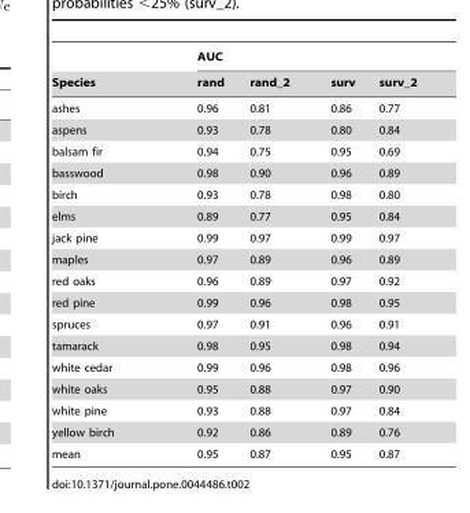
<table><thead><tr><td rowspan="2">Species</td><td colspan="4">AUC</td></tr><tr><td>rand</td><td>rand_2</td><td>surv</td><td>surv_2</td></tr></thead><tbody><tr><td>ashes</td><td>0.96</td><td>0.81</td><td>0.86</td><td>0.77</td></tr><tr><td>aspens</td><td>0.93</td><td>0.78</td><td>0.80</td><td>0.84</td></tr><tr><td>balsam fir</td><td>0.94</td><td>0.75</td><td>0.95</td><td>0.69</td></tr><tr><td>basswood</td><td>0.98</td><td>0.90</td><td>0.96</td><td>0.89</td></tr><tr><td>birch</td><td>0.93</td><td>0.78</td><td>0.98</td><td>0.80</td></tr><tr><td>elms</td><td>0.89</td><td>0.77</td><td>0.95</td><td>0.84</td></tr><tr><td>jack pine</td><td>0.99</td><td>0.97</td><td>0.99</td><td>0.97</td></tr><tr><td>maples</td><td>0.97</td><td>0.89</td><td>0.96</td><td>0.89</td></tr><tr><td>red oaks</td><td>0.96</td><td>0.89</td><td>0.97</td><td>0.92</td></tr><tr><td>red pine</td><td>0.99</td><td>0.96</td><td>0.98</td><td>0.95</td></tr><tr><td>spruces</td><td>0.97</td><td>0.91</td><td>0.96</td><td>0.91</td></tr><tr><td>tamarack</td><td>0.98</td><td>0.95</td><td>0.98</td><td>0.94</td></tr><tr><td>white cedar</td><td>0.99</td><td>0.96</td><td>0.98</td><td>0.96</td></tr><tr><td>white oaks</td><td>0.95</td><td>0.88</td><td>0.97</td><td>0.90</td></tr><tr><td>white pine</td><td>0.93</td><td>0.88</td><td>0.97</td><td>0.84</td></tr><tr><td>yellow birch</td><td>0.92</td><td>0.86</td><td>0.89</td><td>0.76</td></tr><tr><td>mean</td><td>0.95</td><td>0.87</td><td>0.95</td><td>0.87</td></tr></tbody></table>